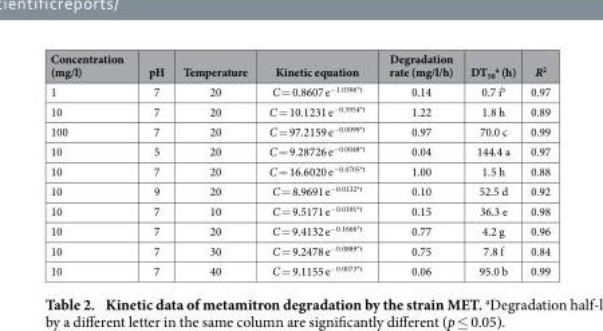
<table><thead><tr><td>Concentration (mg/l)</td><td>pH</td><td>Temperature</td><td>Kinetic equation</td><td>Degradation rate (mg/l/h)</td><td>DT<sub>50</sub> <sup>a</sup> (h)</td><td>R<sup>2</sup></td></tr></thead><tbody><tr><td>1</td><td>7</td><td>20</td><td>C = 0.8607 e<sup>−1.0396*t</sup></td><td>0.14</td><td>0.7 i<sup>b</sup></td><td>0.97</td></tr><tr><td>10</td><td>7</td><td>20</td><td>C = 10.1231 e<sup>−0.3954*t</sup></td><td>1.22</td><td>1.8 h</td><td>0.89</td></tr><tr><td>100</td><td>7</td><td>20</td><td>C = 97.2159 e<sup>−0.0099*t</sup></td><td>0.97</td><td>70.0 c</td><td>0.99</td></tr><tr><td>10</td><td>5</td><td>20</td><td>C = 9.28726 e<sup>−0.0048*t</sup></td><td>0.04</td><td>144.4 a</td><td>0.97</td></tr><tr><td>10</td><td>7</td><td>20</td><td>C = 16.6020 e<sup>−0.4705*t</sup></td><td>1.00</td><td>1.5 h</td><td>0.88</td></tr><tr><td>10</td><td>9</td><td>20</td><td>C = 8.9691 e<sup>−0.0132*t</sup></td><td>0.10</td><td>52.5 d</td><td>0.92</td></tr><tr><td>10</td><td>7</td><td>10</td><td>C = 9.5171 e<sup>−0.0191*t</sup></td><td>0.15</td><td>36.3 e</td><td>0.98</td></tr><tr><td>10</td><td>7</td><td>20</td><td>C = 9.4132 e<sup>−0.1666*t</sup></td><td>0.77</td><td>4.2 g</td><td>0.96</td></tr><tr><td>10</td><td>7</td><td>30</td><td>C = 9.2478 e<sup>−0.0889*t</sup></td><td>0.75</td><td>7.8 f</td><td>0.84</td></tr><tr><td>10</td><td>7</td><td>40</td><td>C = 9.1155 e<sup>−0.0073*t</sup></td><td>0.06</td><td>95.0 b</td><td>0.99</td></tr></tbody></table>